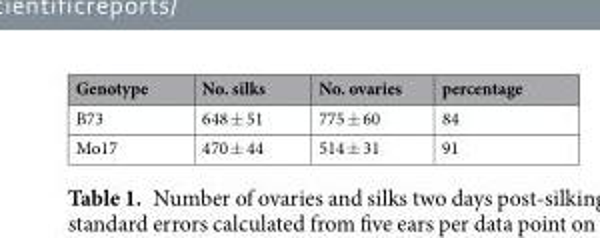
<table><thead><tr><td>Genotype</td><td>No. silks</td><td>No. ovaries</td><td>percentage</td></tr></thead><tbody><tr><td>B73</td><td>648 ± 51</td><td>775 ± 60</td><td>84</td></tr><tr><td>Mo17</td><td>470 ± 44</td><td>514 ± 31</td><td>91</td></tr></tbody></table>